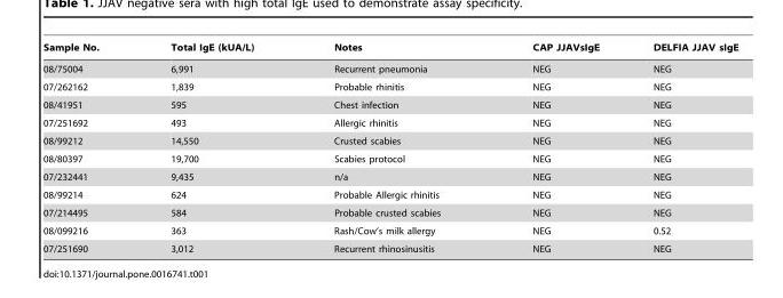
<table><thead><tr><td>Sample No.</td><td>Total IgE (kUA/L)</td><td>Notes</td><td>CAP JJAVsIgE</td><td>DELFIA JJAV sIgE</td></tr></thead><tbody><tr><td>08/75004</td><td>6,991</td><td>Recurrent pneumonia</td><td>NEG</td><td>NEG</td></tr><tr><td>07/262162</td><td>1,839</td><td>Probable rhinitis</td><td>NEG</td><td>NEG</td></tr><tr><td>08/41951</td><td>595</td><td>Chest infection</td><td>NEG</td><td>NEG</td></tr><tr><td>07/251692</td><td>493</td><td>Allergic rhinitis</td><td>NEG</td><td>NEG</td></tr><tr><td>08/99212</td><td>14,550</td><td>Crusted scabies</td><td>NEG</td><td>NEG</td></tr><tr><td>08/80397</td><td>19,700</td><td>Scabies protocol</td><td>NEG</td><td>NEG</td></tr><tr><td>07/232441</td><td>9,435</td><td>n/a</td><td>NEG</td><td>NEG</td></tr><tr><td>08/99214</td><td>624</td><td>Probable Allergic rhinitis</td><td>NEG</td><td>NEG</td></tr><tr><td>07/214495</td><td>584</td><td>Probable crusted scabies</td><td>NEG</td><td>NEG</td></tr><tr><td>08/099216</td><td>363</td><td>Rash/Cow’s milk allergy</td><td>NEG</td><td>0.52</td></tr><tr><td>07/251690</td><td>3,012</td><td>Recurrent rhinosinusitis</td><td>NEG</td><td>NEG</td></tr></tbody></table>